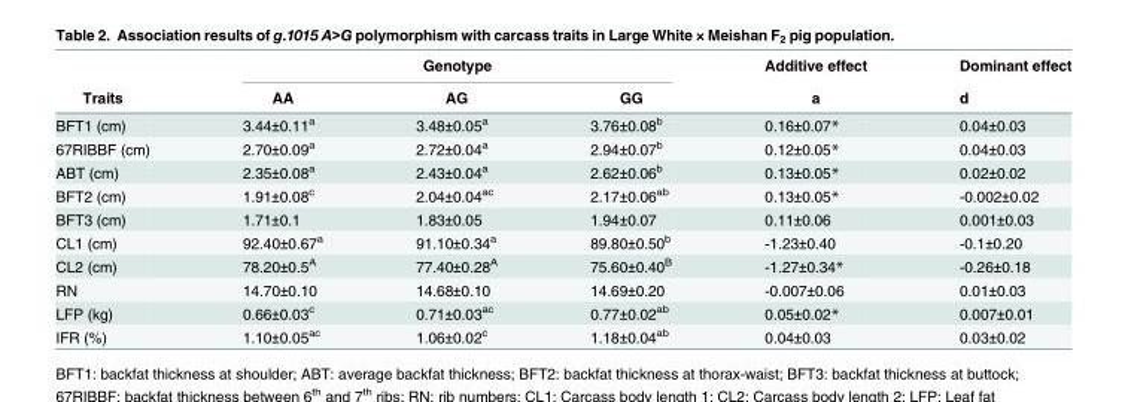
<table><thead><tr><td rowspan="2">Traits</td><td colspan="3">Genotype</td><td rowspan="2">Additive effect a</td><td rowspan="2">Dominant effect d</td></tr><tr><td>AA</td><td>AG</td><td>GG</td></tr></thead><tbody><tr><td>BFT1 (cm)</td><td>3.44±0.11<sup>a</sup></td><td>3.48±0.05<sup>a</sup></td><td>3.76±0.08<sup>b</sup></td><td>0.16±0.07*</td><td>0.04±0.03</td></tr><tr><td>67RIBBF (cm)</td><td>2.70±0.09<sup>a</sup></td><td>2.72±0.04<sup>a</sup></td><td>2.94±0.07<sup>b</sup></td><td>0.12±0.05*</td><td>0.04±0.03</td></tr><tr><td>ABT (cm)</td><td>2.35±0.08<sup>a</sup></td><td>2.43±0.04<sup>a</sup></td><td>2.62±0.06<sup>b</sup></td><td>0.13±0.05*</td><td>0.02±0.02</td></tr><tr><td>BFT2 (cm)</td><td>1.91±0.08<sup>c</sup></td><td>2.04±0.04<sup>ac</sup></td><td>2.17±0.06<sup>ab</sup></td><td>0.13±0.05*</td><td>-0.002±0.02</td></tr><tr><td>BFT3 (cm)</td><td>1.71±0.1</td><td>1.83±0.05</td><td>1.94±0.07</td><td>0.11±0.06</td><td>0.001±0.03</td></tr><tr><td>CL1 (cm)</td><td>92.40±0.67<sup>a</sup></td><td>91.10±0.34<sup>a</sup></td><td>89.80±0.50<sup>b</sup></td><td>-1.23±0.40</td><td>-0.1±0.20</td></tr><tr><td>CL2 (cm)</td><td>78.20±0.5<sup>A</sup></td><td>77.40±0.28<sup>A</sup></td><td>75.60±0.40<sup>B</sup></td><td>-1.27±0.34*</td><td>-0.26±0.18</td></tr><tr><td>RN</td><td>14.70±0.10</td><td>14.68±0.10</td><td>14.69±0.20</td><td>-0.007±0.06</td><td>0.01±0.03</td></tr><tr><td>LFP (kg)</td><td>0.66±0.03<sup>c</sup></td><td>0.71±0.03<sup>ac</sup></td><td>0.77±0.02<sup>ab</sup></td><td>0.05±0.02*</td><td>0.007±0.01</td></tr><tr><td>IFR (%)</td><td>1.10±0.05<sup>ac</sup></td><td>1.06±0.02<sup>c</sup></td><td>1.18±0.04<sup>ab</sup></td><td>0.04±0.03</td><td>0.03±0.02</td></tr></tbody></table>